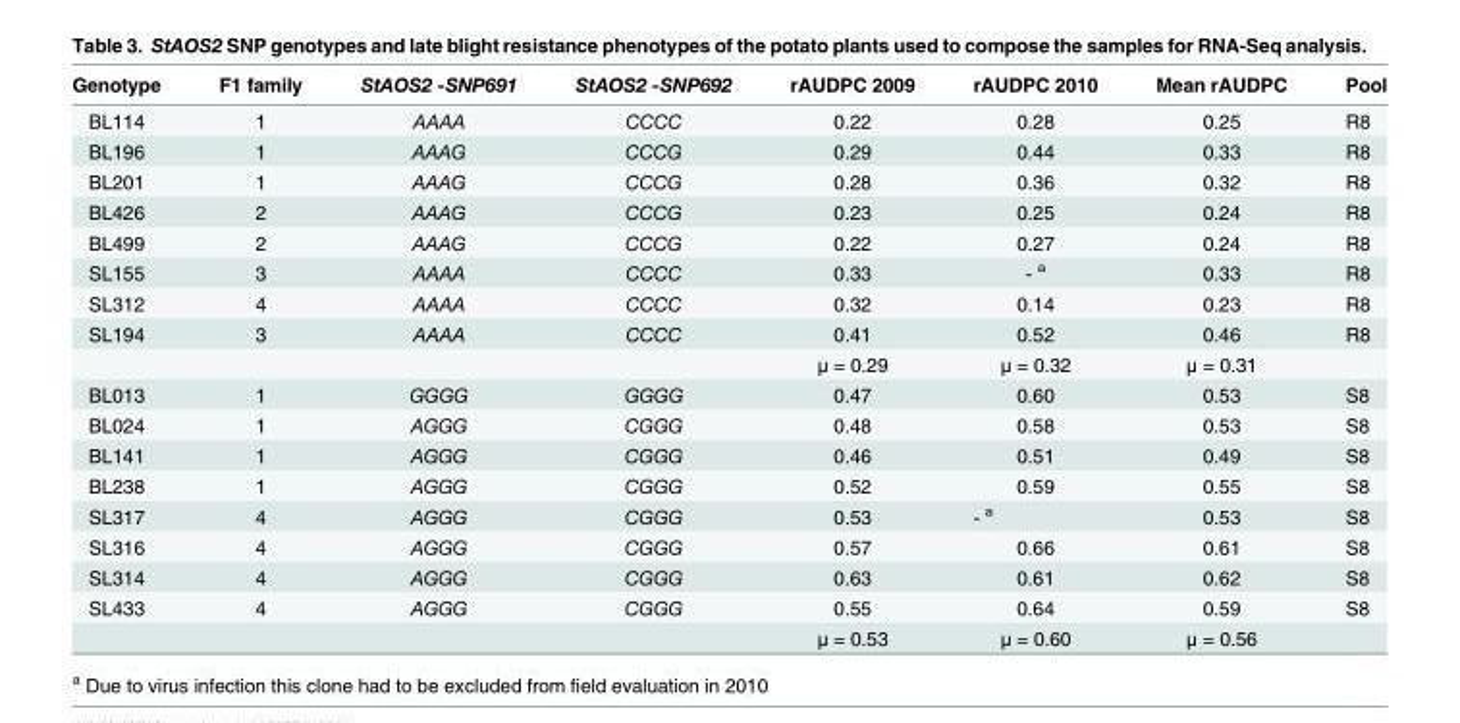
<table><thead><tr><td>Genotype</td><td>F1 family</td><td>StAOS2 -SNP691</td><td>StAOS2 -SNP692</td><td>rAUDPC 2009</td><td>rAUDPC 2010</td><td>Mean rAUDPC</td><td>Pool</td></tr></thead><tbody><tr><td>BL114</td><td>1</td><td>AAAA</td><td>CCCC</td><td>0.22</td><td>0.28</td><td>0.25</td><td>R8</td></tr><tr><td>BL196</td><td>1</td><td>AAAG</td><td>CCCG</td><td>0.29</td><td>0.44</td><td>0.33</td><td>R8</td></tr><tr><td>BL201</td><td>1</td><td>AAAG</td><td>CCCG</td><td>0.28</td><td>0.36</td><td>0.32</td><td>R8</td></tr><tr><td>BL426</td><td>2</td><td>AAAG</td><td>CCCG</td><td>0.23</td><td>0.25</td><td>0.24</td><td>R8</td></tr><tr><td>BL499</td><td>2</td><td>AAAG</td><td>CCCG</td><td>0.22</td><td>0.27</td><td>0.24</td><td>R8</td></tr><tr><td>SL155</td><td>3</td><td>AAAA</td><td>CCCC</td><td>0.33</td><td>- <sup>a</sup></td><td>0.33</td><td>R8</td></tr><tr><td>SL312</td><td>4</td><td>AAAA</td><td>CCCC</td><td>0.32</td><td>0.14</td><td>0.23</td><td>R8</td></tr><tr><td rowspan="2">SL194</td><td>3</td><td>AAAA</td><td>CCCC</td><td>0.41</td><td>0.52</td><td>0.46</td><td>R8</td></tr><tr><td></td><td></td><td></td><td>μ = 0.29</td><td>μ = 0.32</td><td>μ = 0.31</td><td></td></tr><tr><td>BL013</td><td>1</td><td>GGGG</td><td>GGGG</td><td>0.47</td><td>0.60</td><td>0.53</td><td>S8</td></tr><tr><td>BL024</td><td>1</td><td>AGGG</td><td>CGGG</td><td>0.48</td><td>0.58</td><td>0.53</td><td>S8</td></tr><tr><td>BL141</td><td>1</td><td>AGGG</td><td>CGGG</td><td>0.46</td><td>0.51</td><td>0.49</td><td>S8</td></tr><tr><td>BL238</td><td>1</td><td>AGGG</td><td>CGGG</td><td>0.52</td><td>0.59</td><td>0.55</td><td>S8</td></tr><tr><td>SL317</td><td>4</td><td>AGGG</td><td>CGGG</td><td>0.53</td><td>- <sup>a</sup></td><td>0.53</td><td>S8</td></tr><tr><td>SL316</td><td>4</td><td>AGGG</td><td>CGGG</td><td>0.57</td><td>0.66</td><td>0.61</td><td>S8</td></tr><tr><td>SL314</td><td>4</td><td>AGGG</td><td>CGGG</td><td>0.63</td><td>0.61</td><td>0.62</td><td>S8</td></tr><tr><td rowspan="2">SL433</td><td>4</td><td>AGGG</td><td>CGGG</td><td>0.55</td><td>0.64</td><td>0.59</td><td>S8</td></tr><tr><td></td><td></td><td></td><td>μ = 0.53</td><td>μ = 0.60</td><td>μ = 0.56</td><td></td></tr></tbody></table>